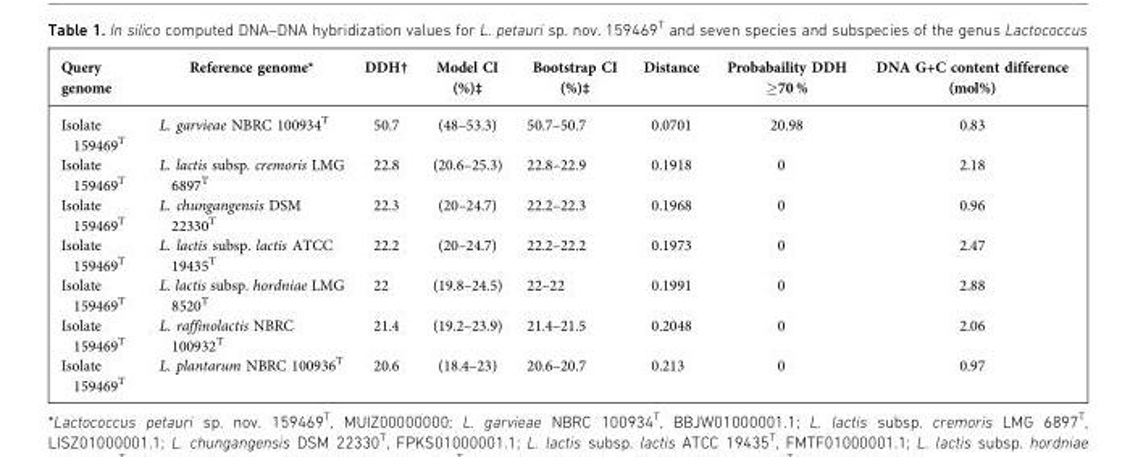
<table><thead><tr><td>Query genome</td><td>Reference genome*</td><td>DDH†</td><td>Model CI (%)‡</td><td>Bootstrap CI (%)‡</td><td>Distance</td><td>Probabaility DDH ≥70 %</td><td>DNA G+C content difference (mol%)</td></tr></thead><tbody><tr><td>Isolate 159469<sup>T</sup></td><td>L. garvieae NBRC 100934<sup>T</sup></td><td>50.7</td><td>(48–53.3)</td><td>50.7–50.7</td><td>0.0701</td><td>20.98</td><td>0.83</td></tr><tr><td>Isolate 159469<sup>T</sup></td><td>L. lactis subsp. cremoris LMG 6897<sup>T</sup></td><td>22.8</td><td>(20.6–25.3)</td><td>22.8–22.9</td><td>0.1918</td><td>0</td><td>2.18</td></tr><tr><td>Isolate 159469<sup>T</sup></td><td>L. chungangensis DSM 22330<sup>T</sup></td><td>22.3</td><td>(20–24.7)</td><td>22.2–22.3</td><td>0.1968</td><td>0</td><td>0.96</td></tr><tr><td>Isolate 159469<sup>T</sup></td><td>L. lactis subsp. lactis ATCC 19435<sup>T</sup></td><td>22.2</td><td>(20–24.7)</td><td>22.2–22.2</td><td>0.1973</td><td>0</td><td>2.47</td></tr><tr><td>Isolate 159469<sup>T</sup></td><td>L. lactis subsp. hordniae LMG 8520<sup>T</sup></td><td>22</td><td>(19.8–24.5)</td><td>22–22</td><td>0.1991</td><td>0</td><td>2.88</td></tr><tr><td>Isolate 159469<sup>T</sup></td><td>L. raffinolactis NBRC 100932<sup>T</sup></td><td>21.4</td><td>(19.2–23.9)</td><td>21.4–21.5</td><td>0.2048</td><td>0</td><td>2.06</td></tr><tr><td>Isolate 159469<sup>T</sup></td><td>L. plantarum NBRC 100936<sup>T</sup></td><td>20.6</td><td>(18.4–23)</td><td>20.6–20.7</td><td>0.213</td><td>0</td><td>0.97</td></tr></tbody></table>